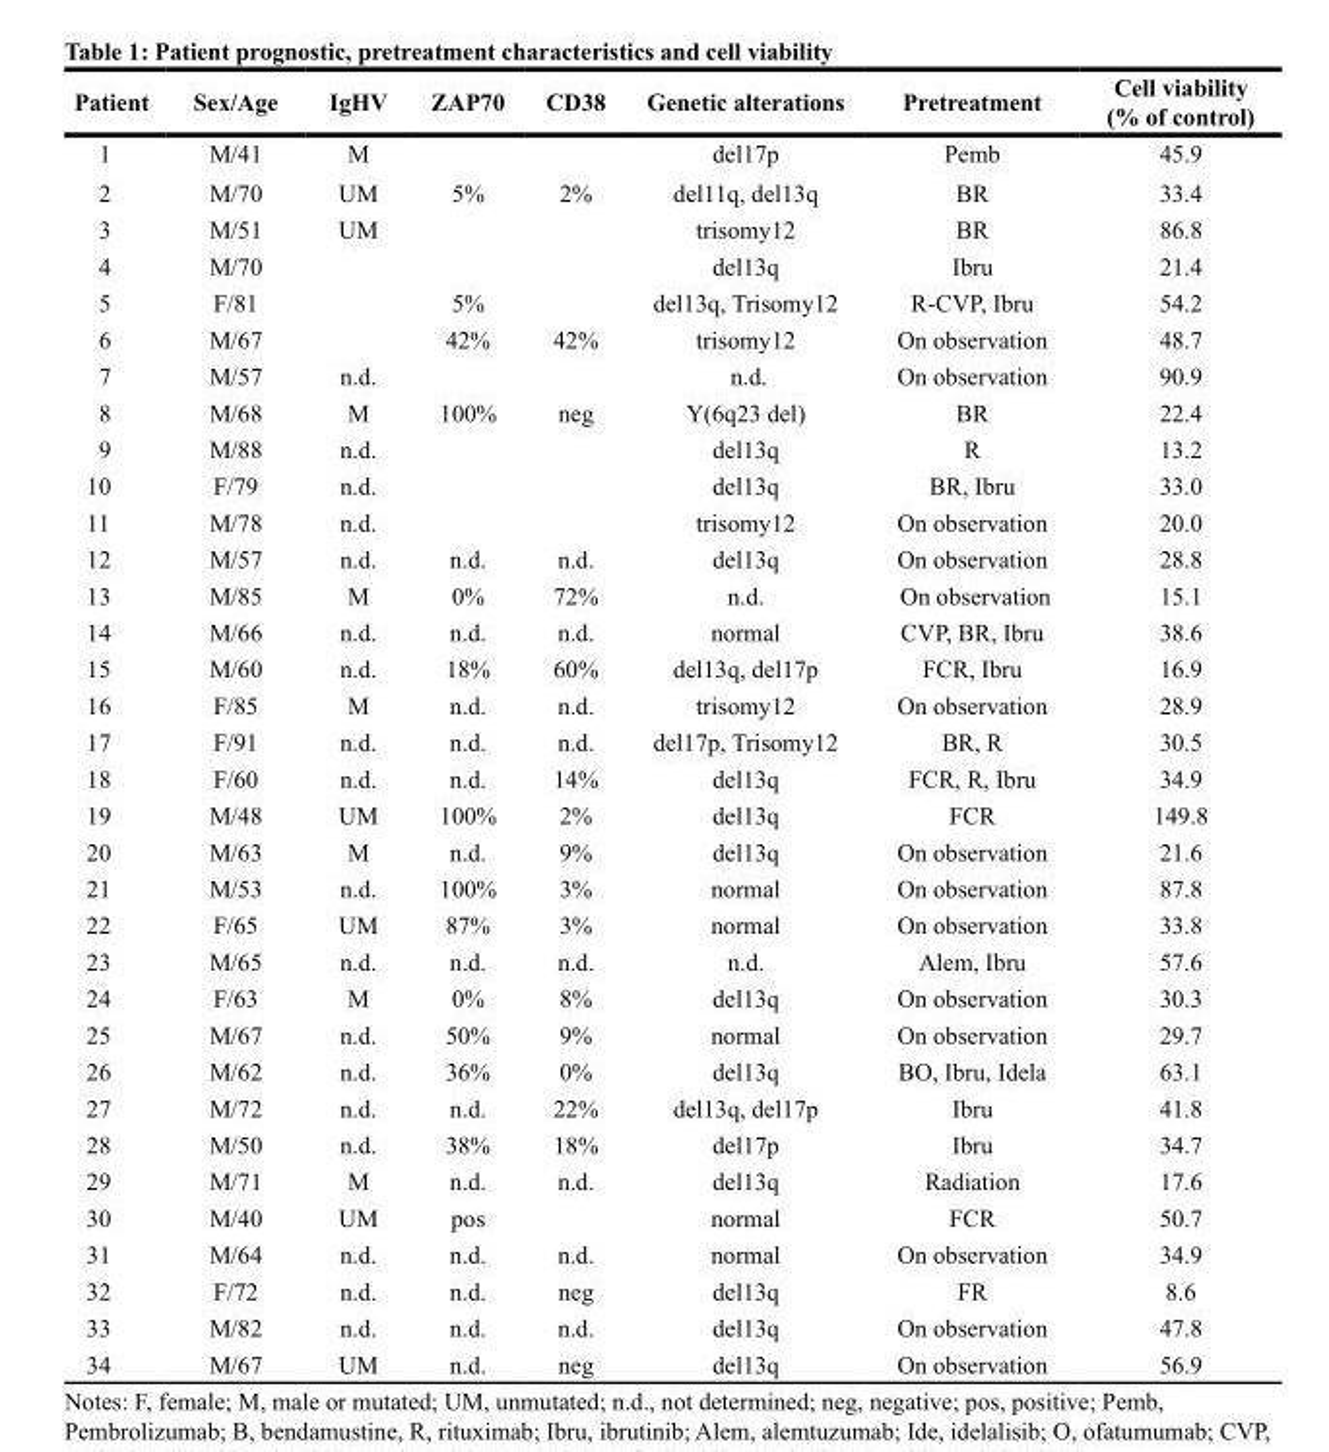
<table><thead><tr><td>Patient</td><td>Sex/Age</td><td>IgHV</td><td>ZAP70</td><td>CD38</td><td>Genetic alterations</td><td>Pretreatment</td><td>Cell viability (% of control)</td></tr></thead><tbody><tr><td>1</td><td>M/41</td><td>M</td><td></td><td></td><td>del17p</td><td>Pemb</td><td>45.9</td></tr><tr><td>2</td><td>M/70</td><td>UM</td><td>5%</td><td>2%</td><td>del11q, del13q</td><td>BR</td><td>33.4</td></tr><tr><td>3</td><td>M/51</td><td>UM</td><td></td><td></td><td>trisomy12</td><td>BR</td><td>86.8</td></tr><tr><td>4</td><td>M/70</td><td></td><td></td><td></td><td>del13q</td><td>Ibru</td><td>21.4</td></tr><tr><td>5</td><td>F/81</td><td></td><td>5%</td><td></td><td>del13q, Trisomy12</td><td>R-CVP, Ibru</td><td>54.2</td></tr><tr><td>6</td><td>M/67</td><td></td><td>42%</td><td>42%</td><td>trisomy12</td><td>On observation</td><td>48.7</td></tr><tr><td>7</td><td>M/57</td><td>n.d.</td><td></td><td></td><td>n.d.</td><td>On observation</td><td>90.9</td></tr><tr><td>8</td><td>M/68</td><td>M</td><td>100%</td><td>neg</td><td>Y(6q23 del)</td><td>BR</td><td>22.4</td></tr><tr><td>9</td><td>M/88</td><td>n.d.</td><td></td><td></td><td>del13q</td><td>R</td><td>13.2</td></tr><tr><td>10</td><td>F/79</td><td>n.d.</td><td></td><td></td><td>del13q</td><td>BR, Ibru</td><td>33.0</td></tr><tr><td>11</td><td>M/78</td><td>n.d.</td><td></td><td></td><td>trisomy12</td><td>On observation</td><td>20.0</td></tr><tr><td>12</td><td>M/57</td><td>n.d.</td><td>n.d.</td><td>n.d.</td><td>del13q</td><td>On observation</td><td>28.8</td></tr><tr><td>13</td><td>M/85</td><td>M</td><td>0%</td><td>72%</td><td>n.d.</td><td>On observation</td><td>15.1</td></tr><tr><td>14</td><td>M/66</td><td>n.d.</td><td>n.d.</td><td>n.d.</td><td>normal</td><td>CVP, BR, Ibru</td><td>38.6</td></tr><tr><td>15</td><td>M/60</td><td>n.d.</td><td>18%</td><td>60%</td><td>del13q, del17p</td><td>FCR, Ibru</td><td>16.9</td></tr><tr><td>16</td><td>F/85</td><td>M</td><td>n.d.</td><td>n.d.</td><td>trisomy12</td><td>On observation</td><td>28.9</td></tr><tr><td>17</td><td>F/91</td><td>n.d.</td><td>n.d.</td><td>n.d.</td><td>del17p, Trisomy12</td><td>BR, R</td><td>30.5</td></tr><tr><td>18</td><td>F/60</td><td>n.d.</td><td>n.d.</td><td>14%</td><td>del13q</td><td>FCR, R, Ibru</td><td>34.9</td></tr><tr><td>19</td><td>M/48</td><td>UM</td><td>100%</td><td>2%</td><td>del13q</td><td>FCR</td><td>149.8</td></tr><tr><td>20</td><td>M/63</td><td>M</td><td>n.d.</td><td>9%</td><td>del13q</td><td>On observation</td><td>21.6</td></tr><tr><td>21</td><td>M/53</td><td>n.d.</td><td>100%</td><td>3%</td><td>normal</td><td>On observation</td><td>87.8</td></tr><tr><td>22</td><td>F/65</td><td>UM</td><td>87%</td><td>3%</td><td>normal</td><td>On observation</td><td>33.8</td></tr><tr><td>23</td><td>M/65</td><td>n.d.</td><td>n.d.</td><td>n.d.</td><td>n.d.</td><td>Alem, Ibru</td><td>57.6</td></tr><tr><td>24</td><td>F/63</td><td>M</td><td>0%</td><td>8%</td><td>del13q</td><td>On observation</td><td>30.3</td></tr><tr><td>25</td><td>M/67</td><td>n.d.</td><td>50%</td><td>9%</td><td>normal</td><td>On observation</td><td>29.7</td></tr><tr><td>26</td><td>M/62</td><td>n.d.</td><td>36%</td><td>0%</td><td>del13q</td><td>BO, Ibru, Idela</td><td>63.1</td></tr><tr><td>27</td><td>M/72</td><td>n.d.</td><td>n.d.</td><td>22%</td><td>del13q, del17p</td><td>Ibru</td><td>41.8</td></tr><tr><td>28</td><td>M/50</td><td>n.d.</td><td>38%</td><td>18%</td><td>del17p</td><td>Ibru</td><td>34.7</td></tr><tr><td>29</td><td>M/71</td><td>M</td><td>n.d.</td><td>n.d.</td><td>del13q</td><td>Radiation</td><td>17.6</td></tr><tr><td>30</td><td>M/40</td><td>UM</td><td>pos</td><td></td><td>normal</td><td>FCR</td><td>50.7</td></tr><tr><td>31</td><td>M/64</td><td>n.d.</td><td>n.d.</td><td>n.d.</td><td>normal</td><td>On observation</td><td>34.9</td></tr><tr><td>32</td><td>F/72</td><td>n.d.</td><td>n.d.</td><td>neg</td><td>del13q</td><td>FR</td><td>8.6</td></tr><tr><td>33</td><td>M/82</td><td>n.d.</td><td>n.d.</td><td>n.d.</td><td>del13q</td><td>On observation</td><td>47.8</td></tr><tr><td>34</td><td>M/67</td><td>UM</td><td>n.d.</td><td>neg</td><td>del13q</td><td>On observation</td><td>56.9</td></tr></tbody></table>